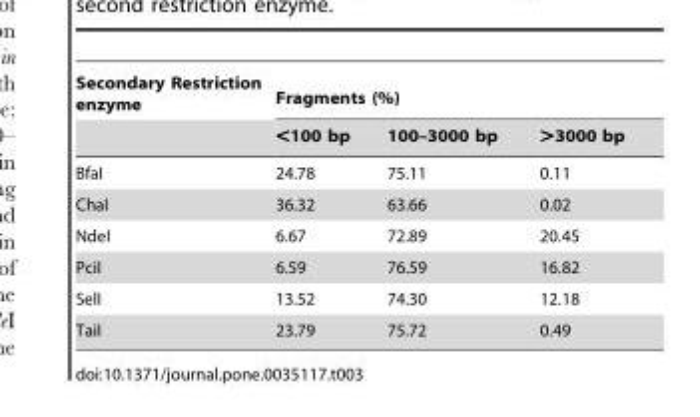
<table><thead><tr><td rowspan="2">Secondary Restriction enzyme</td><td colspan="3">Fragments (%)</td></tr><tr><td>&lt;100 bp</td><td>100–3000 bp</td><td>&gt;3000 bp</td></tr></thead><tbody><tr><td>BfaI</td><td>24.78</td><td>75.11</td><td>0.11</td></tr><tr><td>ChaI</td><td>36.32</td><td>63.66</td><td>0.02</td></tr><tr><td>NdeI</td><td>6.67</td><td>72.89</td><td>20.45</td></tr><tr><td>PciI</td><td>6.59</td><td>76.59</td><td>16.82</td></tr><tr><td>SelI</td><td>13.52</td><td>74.30</td><td>12.18</td></tr><tr><td>TaiI</td><td>23.79</td><td>75.72</td><td>0.49</td></tr></tbody></table>